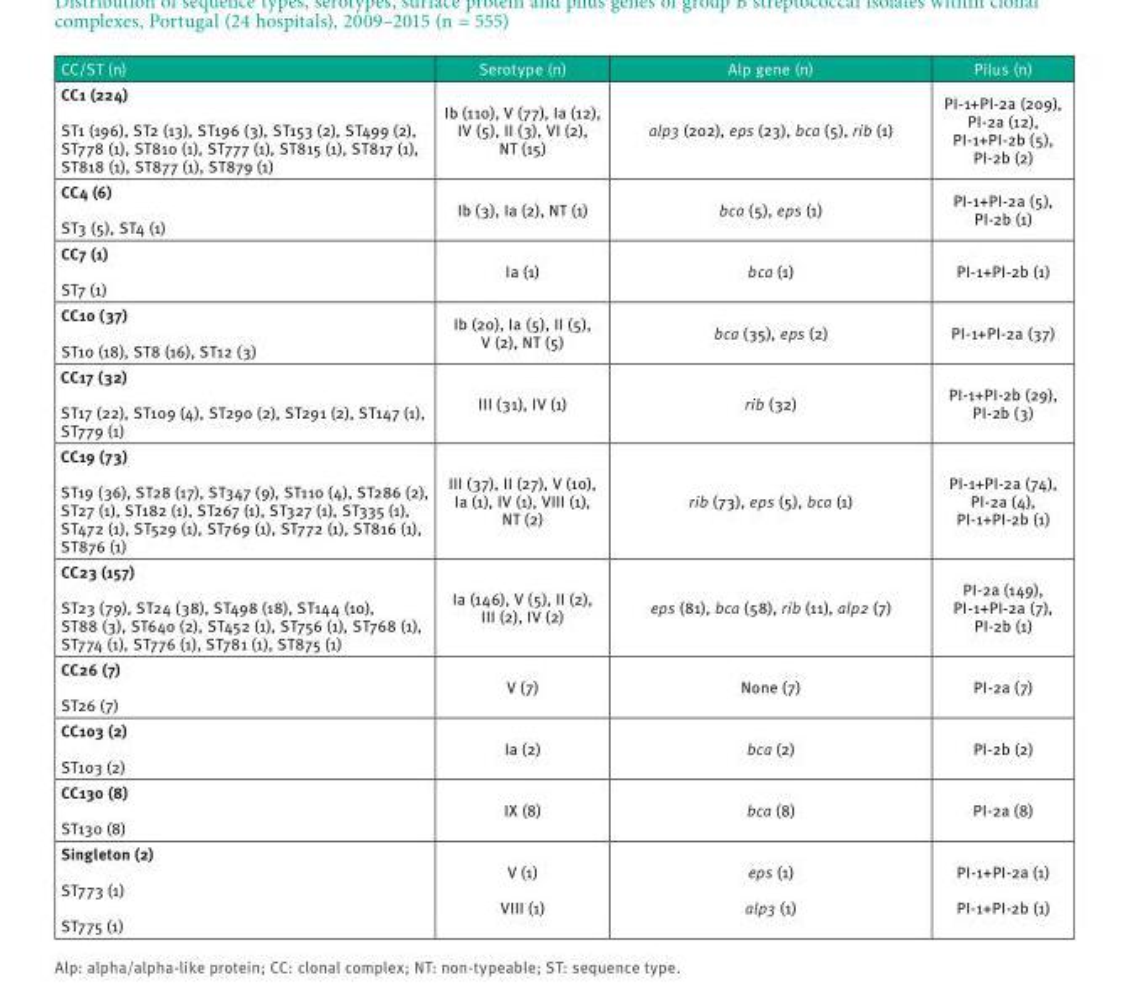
<table><thead><tr><td>CC/ST (n)</td><td>Serotype (n)</td><td>Alp gene (n)</td><td>Pilus (n)</td></tr></thead><tbody><tr><td>CC1 (224) ST1 (196), ST2 (13), ST196 (3), ST153 (2), ST499 (2), ST778 (1), ST810 (1), ST777 (1), ST815 (1), ST817 (1), ST818 (1), ST877 (1), ST879 (1)</td><td>Ib (110), V (77), Ia (12), IV (5), II (3), VI (2), NT (15)</td><td>alp3 (202), eps (23), bca (5), rib (1)</td><td>PI-1+PI-2a (209), PI-2a (12), PI-1+PI-2b (5), PI-2b (2)</td></tr><tr><td>CC4 (6) ST3 (5), ST4 (1)</td><td>Ib (3), Ia (2), NT (1)</td><td>bca (5), eps (1)</td><td>PI-1+PI-2a (5), PI-2b (1)</td></tr><tr><td>CC7 (1) ST7 (1)</td><td>Ia (1)</td><td>bca (1)</td><td>PI-1+PI-2b (1)</td></tr><tr><td>CC10 (37) ST10 (18), ST8 (16), ST12 (3)</td><td>Ib (20), Ia (5), II (5), V (2), NT (5)</td><td>bca (35), eps (2)</td><td>PI-1+PI-2a (37)</td></tr><tr><td>CC17 (32) ST17 (22), ST109 (4), ST290 (2), ST291 (2), ST147 (1), ST779 (1)</td><td>III (31), IV (1)</td><td>rib (32)</td><td>PI-1+PI-2b (29), PI-2b (3)</td></tr><tr><td>CC19 (73) ST19 (36), ST28 (17), ST347 (9), ST110 (4), ST286 (2), ST27 (1), ST182 (1), ST267 (1), ST327 (1), ST335 (1), ST472 (1), ST529 (1), ST769 (1), ST772 (1), ST816 (1), ST876 (1)</td><td>III (37), II (27), V (10), Ia (1), IV (1), VIII (1), NT (2)</td><td>rib (73), eps (5), bca (1)</td><td>PI-1+PI-2a (74), PI-2a (4), PI-1+PI-2b (1)</td></tr><tr><td>CC23 (157) ST23 (79), ST24 (38), ST498 (18), ST144 (10), ST88 (3), ST640 (2), ST452 (1), ST756 (1), ST768 (1), ST774 (1), ST776 (1), ST781 (1), ST875 (1)</td><td>Ia (146), V (5), II (2), III (2), IV (2)</td><td>eps (81), bca (58), rib (11), alp2 (7)</td><td>PI-2a (149), PI-1+PI-2a (7), PI-2b (1)</td></tr><tr><td>CC26 (7) ST26 (7)</td><td>V (7)</td><td>None (7)</td><td>PI-2a (7)</td></tr><tr><td>CC103 (2) ST103 (2)</td><td>Ia (2)</td><td>bca (2)</td><td>PI-2b (2)</td></tr><tr><td>CC130 (8) ST130 (8)</td><td>IX (8)</td><td>bca (8)</td><td>PI-2a (8)</td></tr><tr><td>Singleton (2) ST773 (1) ST775 (1)</td><td>V (1) VIII (1)</td><td>eps (1) alp3 (1)</td><td>PI-1+PI-2a (1) PI-1+PI-2b (1)</td></tr></tbody></table>